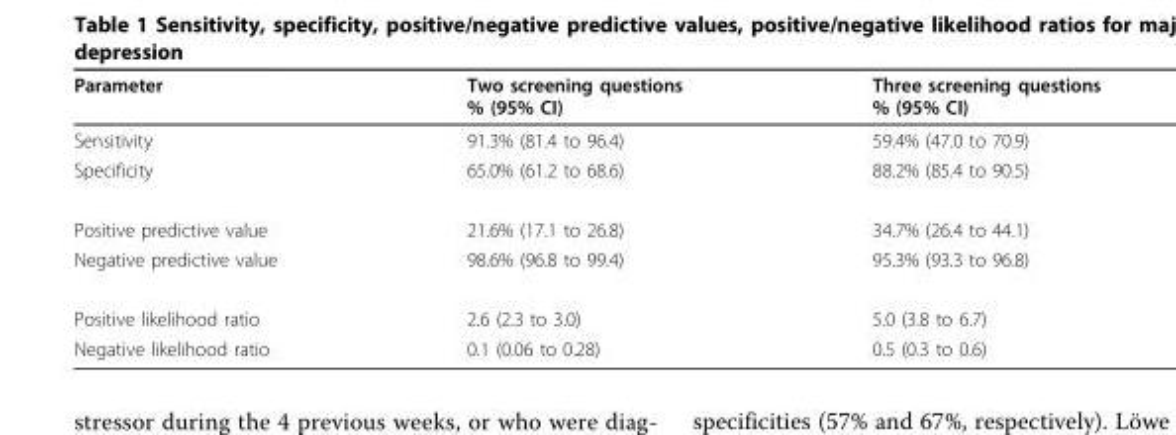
<table><thead><tr><td>Parameter</td><td>Two screening questions % (95% CI)</td><td>Three screening questions % (95% CI)</td></tr></thead><tbody><tr><td>Sensitivity</td><td>91.3% (81.4 to 96.4)</td><td>59.4% (47.0 to 70.9)</td></tr><tr><td>Specificity</td><td>65.0% (61.2 to 68.6)</td><td>88.2% (85.4 to 90.5)</td></tr><tr><td>Positive predictive value</td><td>21.6% (17.1 to 26.8)</td><td>34.7% (26.4 to 44.1)</td></tr><tr><td>Negative predictive value</td><td>98.6% (96.8 to 99.4)</td><td>95.3% (93.3 to 96.8)</td></tr><tr><td>Positive likelihood ratio</td><td>2.6 (2.3 to 3.0)</td><td>5.0 (3.8 to 6.7)</td></tr><tr><td>Negative likelihood ratio</td><td>0.1 (0.06 to 0.28)</td><td>0.5 (0.3 to 0.6)</td></tr></tbody></table>